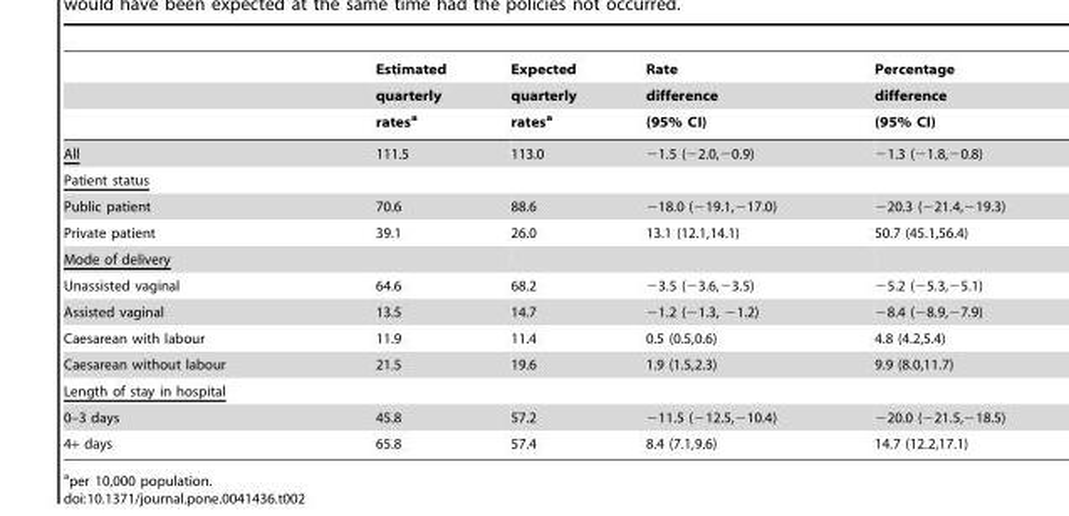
<table><thead><tr><td rowspan="3"></td><td rowspan="3">Estimated quarterly rates<sup>a</sup></td><td rowspan="3">Expected quarterly rates<sup>a</sup></td><td rowspan="3">Rate difference (95% CI)</td><td rowspan="3">Percentage difference (95% CI)</td></tr><tr></tr><tr></tr></thead><tbody><tr><td>All</td><td>111.5</td><td>113.0</td><td>−1.5 (−2.0,−0.9)</td><td>−1.3 (−1.8,−0.8)</td></tr><tr><td colspan="5">Patient status</td></tr><tr><td>Public patient</td><td>70.6</td><td>88.6</td><td>−18.0 (−19.1,−17.0)</td><td>−20.3 (−21.4,−19.3)</td></tr><tr><td>Private patient</td><td>39.1</td><td>26.0</td><td>13.1 (12.1,14.1)</td><td>50.7 (45.1,56.4)</td></tr><tr><td colspan="5">Mode of delivery</td></tr><tr><td>Unassisted vaginal</td><td>64.6</td><td>68.2</td><td>−3.5 (−3.6,−3.5)</td><td>−5.2 (−5.3,−5.1)</td></tr><tr><td>Assisted vaginal</td><td>13.5</td><td>14.7</td><td>−1.2 (−1.3, −1.2)</td><td>−8.4 (−8.9,−7.9)</td></tr><tr><td>Caesarean with labour</td><td>11.9</td><td>11.4</td><td>0.5 (0.5,0.6)</td><td>4.8 (4.2,5.4)</td></tr><tr><td>Caesarean without labour</td><td>21.5</td><td>19.6</td><td>1.9 (1.5,2.3)</td><td>9.9 (8.0,11.7)</td></tr><tr><td colspan="5">Length of stay in hospital</td></tr><tr><td>0–3 days</td><td>45.8</td><td>57.2</td><td>−11.5 (−12.5,−10.4)</td><td>−20.0 (−21.5,−18.5)</td></tr><tr><td>4+ days</td><td>65.8</td><td>57.4</td><td>8.4 (7.1,9.6)</td><td>14.7 (12.2,17.1)</td></tr></tbody></table>